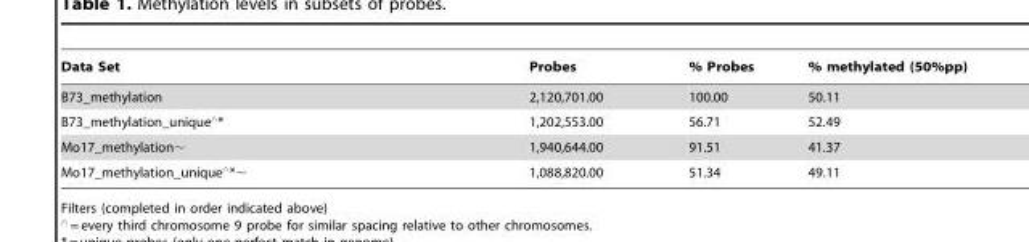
<table><thead><tr><td>Data Set</td><td>Probes</td><td>% Probes</td><td>% methylated (50%pp)</td></tr></thead><tbody><tr><td>B73_methylation</td><td>2,120,701.00</td><td>100.00</td><td>50.11</td></tr><tr><td>B73_methylation_unique‘*</td><td>1,202,553.00</td><td>56.71</td><td>52.49</td></tr><tr><td>Mo17_methylation∼</td><td>1,940,644.00</td><td>91.51</td><td>41.37</td></tr><tr><td>Mo17_methylation_unique‘*,</td><td>1,088,820.00</td><td>51.34</td><td>49.11</td></tr></tbody></table>